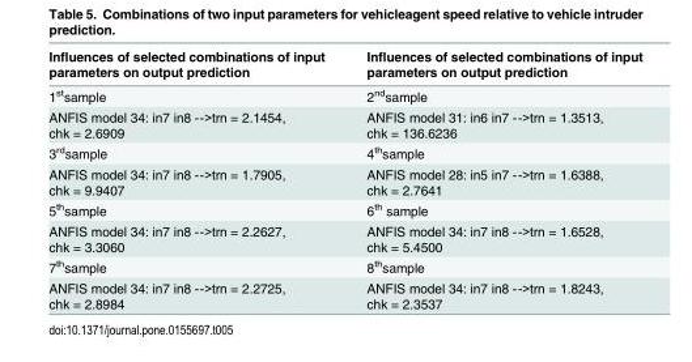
<table><thead><tr><td>Influences of selected combinations of input parameters on output prediction</td><td>Influences of selected combinations of input parameters on output prediction</td></tr></thead><tbody><tr><td>1stsample</td><td>2ndsample</td></tr><tr><td>ANFIS model 34: in7 in8 --&gt;trn = 2.1454, chk = 2.6909</td><td>ANFIS model 31: in6 in7 --&gt;trn = 1.3513, chk = 136.6236</td></tr><tr><td>3rdsample</td><td>4thsample</td></tr><tr><td>ANFIS model 34: in7 in8 --&gt;trn = 1.7905, chk = 9.9407</td><td>ANFIS model 28: in5 in7 --&gt;trn = 1.6388, chk = 2.7641</td></tr><tr><td>5thsample</td><td>6th sample</td></tr><tr><td>ANFIS model 34: in7 in8 --&gt;trn = 2.2627, chk = 3.3060</td><td>ANFIS model 34: in7 in8 --&gt;trn = 1.6528, chk = 5.4500</td></tr><tr><td>7thsample</td><td>8thsample</td></tr><tr><td>ANFIS model 34: in7 in8 --&gt;trn = 2.2725, chk = 2.8984</td><td>ANFIS model 34: in7 in8 --&gt;trn = 1.8243, chk = 2.3537</td></tr></tbody></table>